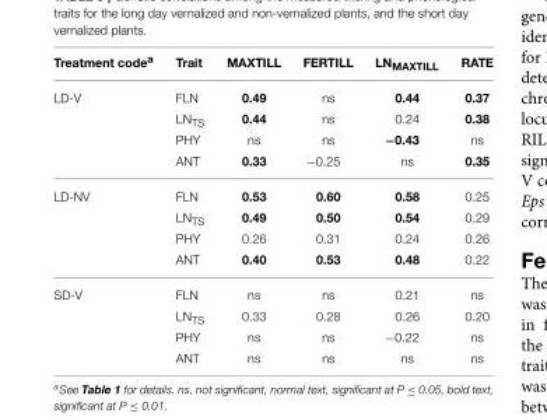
<table><thead><tr><td>Treatment code<sup>a</sup></td><td>Trait</td><td>MAXTILL</td><td>FERTILL</td><td>LN<sub>MAXTILL</sub></td><td>RATE</td></tr></thead><tbody><tr><td rowspan="4">LD-V</td><td>FLN</td><td>0.49</td><td>ns</td><td>0.44</td><td>0.37</td></tr><tr><td>LN<sub>TS</sub></td><td>0.44</td><td>ns</td><td>0.24</td><td>0.38</td></tr><tr><td>PHY</td><td>ns</td><td>ns</td><td>−0.43</td><td>ns</td></tr><tr><td>ANT</td><td>0.33</td><td>−0.25</td><td>ns</td><td>0.35</td></tr><tr><td rowspan="4">LD-NV</td><td>FLN</td><td>0.53</td><td>0.60</td><td>0.58</td><td>0.25</td></tr><tr><td>LN<sub>TS</sub></td><td>0.49</td><td>0.50</td><td>0.54</td><td>0.29</td></tr><tr><td>PHY</td><td>0.26</td><td>0.31</td><td>0.24</td><td>0.26</td></tr><tr><td>ANT</td><td>0.40</td><td>0.53</td><td>0.48</td><td>0.22</td></tr><tr><td rowspan="4">SD-V</td><td>FLN</td><td>ns</td><td>ns</td><td>0.21</td><td>ns</td></tr><tr><td>LN<sub>TS</sub></td><td>0.33</td><td>0.28</td><td>0.26</td><td>0.20</td></tr><tr><td>PHY</td><td>ns</td><td>ns</td><td>−0.22</td><td>ns</td></tr><tr><td>ANT</td><td>ns</td><td>ns</td><td>ns</td><td>ns</td></tr></tbody></table>